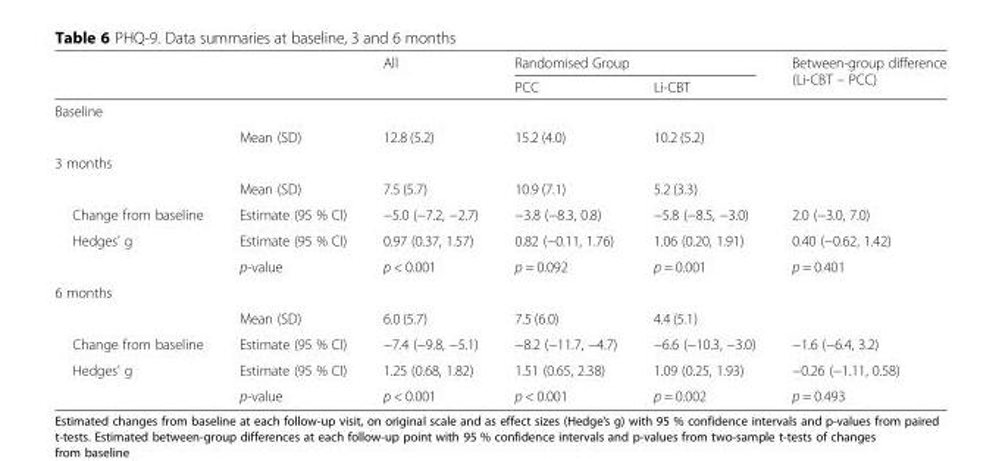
<table><thead><tr><td rowspan="2"></td><td rowspan="2"></td><td rowspan="2">All</td><td colspan="2">Randomised Group</td><td rowspan="2">Between-group difference (Li-CBT – PCC)</td></tr><tr><td>PCC</td><td>Li-CBT</td></tr></thead><tbody><tr><td colspan="6">Baseline</td></tr><tr><td></td><td>Mean (SD)</td><td>12.8 (5.2)</td><td>15.2 (4.0)</td><td>10.2 (5.2)</td><td></td></tr><tr><td colspan="6">3 months</td></tr><tr><td></td><td>Mean (SD)</td><td>7.5 (5.7)</td><td>10.9 (7.1)</td><td>5.2 (3.3)</td><td></td></tr><tr><td>Change from baseline</td><td>Estimate (95 % CI)</td><td>−5.0 (−7.2, −2.7)</td><td>−3.8 (−8.3, 0.8)</td><td>−5.8 (−8.5, −3.0)</td><td>2.0 (−3.0, 7.0)</td></tr><tr><td rowspan="2">Hedges&#x27; g</td><td>Estimate (95 % CI)</td><td>0.97 (0.37, 1.57)</td><td>0.82 (−0.11, 1.76)</td><td>1.06 (0.20, 1.91)</td><td>0.40 (−0.62, 1.42)</td></tr><tr><td>p-value</td><td>p &lt; 0.001</td><td>p = 0.092</td><td>p = 0.001</td><td>p = 0.401</td></tr><tr><td colspan="6">6 months</td></tr><tr><td></td><td>Mean (SD)</td><td>6.0 (5.7)</td><td>7.5 (6.0)</td><td>4.4 (5.1)</td><td></td></tr><tr><td>Change from baseline</td><td>Estimate (95 % CI)</td><td>−7.4 (−9.8, −5.1)</td><td>−8.2 (−11.7, −4.7)</td><td>−6.6 (−10.3, −3.0)</td><td>−1.6 (−6.4, 3.2)</td></tr><tr><td rowspan="2">Hedges&#x27; g</td><td>Estimate (95 % CI)</td><td>1.25 (0.68, 1.82)</td><td>1.51 (0.65, 2.38)</td><td>1.09 (0.25, 1.93)</td><td>−0.26 (−1.11, 0.58)</td></tr><tr><td>p-value</td><td>p &lt; 0.001</td><td>p &lt; 0.001</td><td>p = 0.002</td><td>p = 0.493</td></tr></tbody></table>